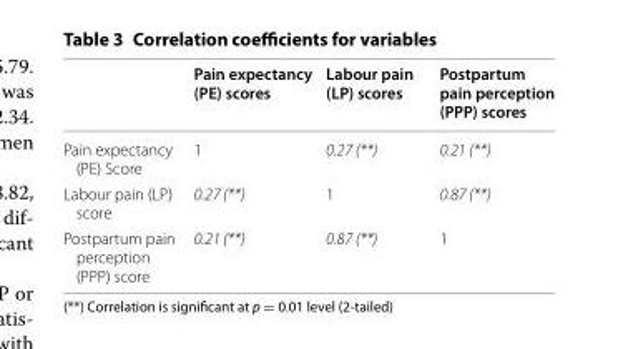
<table><thead><tr><td></td><td>Pain expectancy (PE) scores</td><td>Labour pain (LP) scores</td><td>Postpartum pain perception (PPP) scores</td></tr></thead><tbody><tr><td>Pain expectancy (PE) Score</td><td>1</td><td>0.27 (**)</td><td>0.21 (**)</td></tr><tr><td>Labour pain (LP) score</td><td>0.27 (**)</td><td>1</td><td>0.87 (**)</td></tr><tr><td>Postpartum pain perception (PPP) score</td><td>0.21 (**)</td><td>0.87 (**)</td><td>1</td></tr></tbody></table>